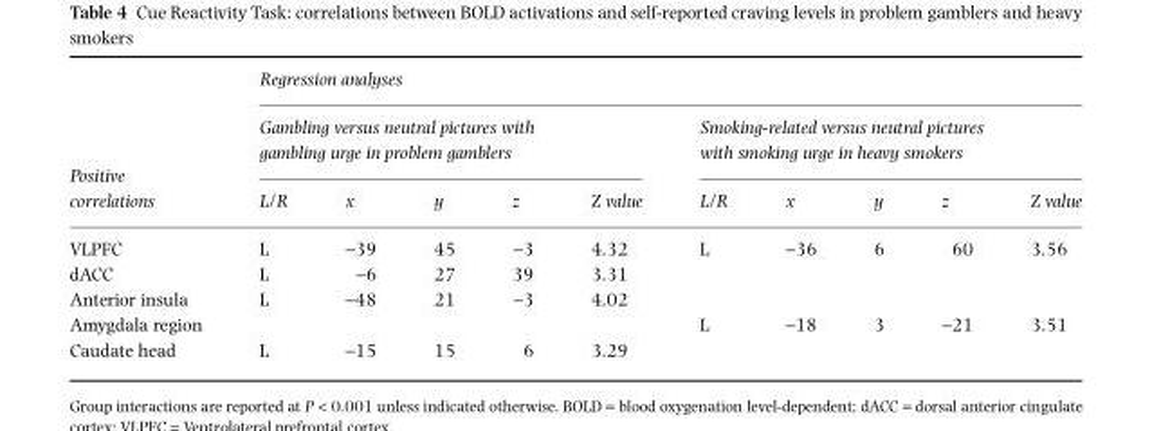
<table><thead><tr><td rowspan="3">Positive correlations</td><td colspan="10">Regression analyses</td></tr><tr><td colspan="5">Gambling versus neutral pictures with gambling urge in problem gamblers</td><td colspan="5">Smoking-related versus neutral pictures with smoking urge in heavy smokers</td></tr><tr><td>L/R</td><td>x</td><td>y</td><td>z</td><td>Z value</td><td>L/R</td><td>x</td><td>y</td><td>z</td><td>Z value</td></tr></thead><tbody><tr><td>VLPFC</td><td>L</td><td>-39</td><td>45</td><td>-3</td><td>4.32</td><td>L</td><td>-36</td><td>6</td><td>60</td><td>3.56</td></tr><tr><td>dACC</td><td>L</td><td>-6</td><td>27</td><td>39</td><td>3.31</td><td></td><td></td><td></td><td></td><td></td></tr><tr><td>Anterior insula</td><td>L</td><td>-48</td><td>21</td><td>-3</td><td>4.02</td><td></td><td></td><td></td><td></td><td></td></tr><tr><td>Amygdala region</td><td></td><td></td><td></td><td></td><td></td><td>L</td><td>-18</td><td>3</td><td>-21</td><td>3.51</td></tr><tr><td>Caudate head</td><td>L</td><td>-15</td><td>15</td><td>6</td><td>3.29</td><td></td><td></td><td></td><td></td><td></td></tr></tbody></table>